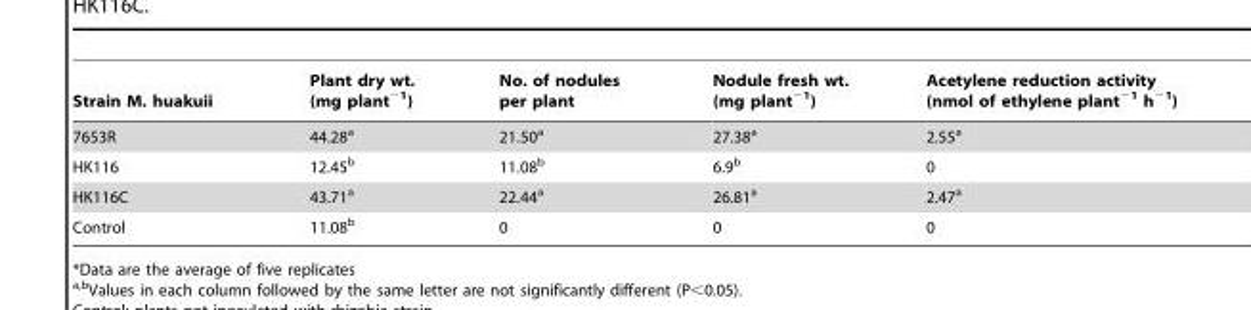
<table><thead><tr><td>Strain M. huakuii</td><td>Plant dry wt. (mg plant<sup>−1</sup>)</td><td>No. of nodules per plant</td><td>Nodule fresh wt. (mg plant<sup>−1</sup>)</td><td>Acetylene reduction activity (nmol of ethylene plant<sup>−1</sup> h<sup>−1</sup>)</td></tr></thead><tbody><tr><td>7653R</td><td>44.28<sup>a</sup></td><td>21.50<sup>a</sup></td><td>27.38<sup>a</sup></td><td>2.55<sup>a</sup></td></tr><tr><td>HK116</td><td>12.45<sup>b</sup></td><td>11.08<sup>b</sup></td><td>6.9<sup>b</sup></td><td>0</td></tr><tr><td>HK116C</td><td>43.71<sup>a</sup></td><td>22.44<sup>a</sup></td><td>26.81<sup>a</sup></td><td>2.47<sup>a</sup></td></tr><tr><td>Control</td><td>11.08<sup>b</sup></td><td>0</td><td>0</td><td>0</td></tr></tbody></table>